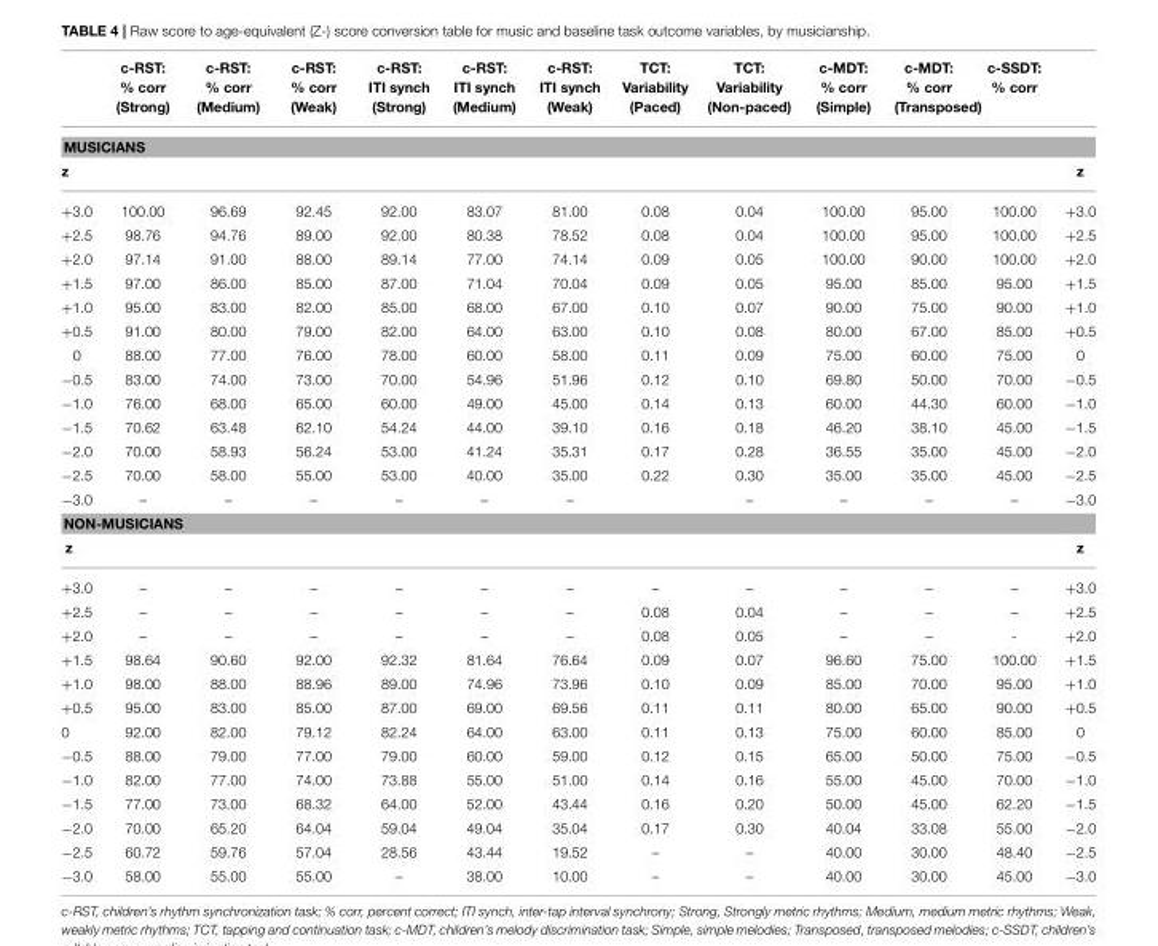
<table><thead><tr><td></td><td>c-RST: % corr (Strong)</td><td>c-RST: % corr (Medium)</td><td>c-RST: % corr (Weak)</td><td>c-RST: ITI synch (Strong)</td><td>c-RST: ITI synch (Medium)</td><td>c-RST: ITI synch (Weak)</td><td>TCT: Variability (Paced)</td><td>TCT: Variability (Non-paced)</td><td>c-MDT: % corr (Simple)</td><td>c-MDT: % corr (Transposed)</td><td>c-SSDT: % corr</td><td></td></tr></thead><tbody><tr><td colspan="13">MUSICIANS</td></tr><tr><td>z</td><td></td><td></td><td></td><td></td><td></td><td></td><td></td><td></td><td></td><td></td><td></td><td>z</td></tr><tr><td>+3.0</td><td>100.00</td><td>96.69</td><td>92.45</td><td>92.00</td><td>83.07</td><td>81.00</td><td>0.08</td><td>0.04</td><td>100.00</td><td>95.00</td><td>100.00</td><td>+3.0</td></tr><tr><td>+2.5</td><td>98.76</td><td>94.76</td><td>89.00</td><td>92.00</td><td>80.38</td><td>78.52</td><td>0.08</td><td>0.04</td><td>100.00</td><td>95.00</td><td>100.00</td><td>+2.5</td></tr><tr><td>+2.0</td><td>97.14</td><td>91.00</td><td>88.00</td><td>89.14</td><td>77.00</td><td>74.14</td><td>0.09</td><td>0.05</td><td>100.00</td><td>90.00</td><td>100.00</td><td>+2.0</td></tr><tr><td>+1.5</td><td>97.00</td><td>86.00</td><td>85.00</td><td>87.00</td><td>71.04</td><td>70.04</td><td>0.09</td><td>0.05</td><td>95.00</td><td>85.00</td><td>95.00</td><td>+1.5</td></tr><tr><td>+1.0</td><td>95.00</td><td>83.00</td><td>82.00</td><td>85.00</td><td>68.00</td><td>67.00</td><td>0.10</td><td>0.07</td><td>90.00</td><td>75.00</td><td>90.00</td><td>+1.0</td></tr><tr><td>+0.5</td><td>91.00</td><td>80.00</td><td>79.00</td><td>82.00</td><td>64.00</td><td>63.00</td><td>0.10</td><td>0.08</td><td>80.00</td><td>67.00</td><td>85.00</td><td>+0.5</td></tr><tr><td>0</td><td>88.00</td><td>77.00</td><td>76.00</td><td>78.00</td><td>60.00</td><td>58.00</td><td>0.11</td><td>0.09</td><td>75.00</td><td>60.00</td><td>75.00</td><td>0</td></tr><tr><td>−0.5</td><td>83.00</td><td>74.00</td><td>73.00</td><td>70.00</td><td>54.96</td><td>51.96</td><td>0.12</td><td>0.10</td><td>69.80</td><td>50.00</td><td>70.00</td><td>−0.5</td></tr><tr><td>−1.0</td><td>76.00</td><td>68.00</td><td>65.00</td><td>60.00</td><td>49.00</td><td>45.00</td><td>0.14</td><td>0.13</td><td>60.00</td><td>44.30</td><td>60.00</td><td>−1.0</td></tr><tr><td>−1.5</td><td>70.62</td><td>63.48</td><td>62.10</td><td>54.24</td><td>44.00</td><td>39.10</td><td>0.16</td><td>0.18</td><td>46.20</td><td>38.10</td><td>45.00</td><td>−1.5</td></tr><tr><td>−2.0</td><td>70.00</td><td>58.93</td><td>56.24</td><td>53.00</td><td>41.24</td><td>35.31</td><td>0.17</td><td>0.28</td><td>36.55</td><td>35.00</td><td>45.00</td><td>−2.0</td></tr><tr><td>−2.5</td><td>70.00</td><td>58.00</td><td>55.00</td><td>53.00</td><td>40.00</td><td>35.00</td><td>0.22</td><td>0.30</td><td>35.00</td><td>35.00</td><td>45.00</td><td>−2.5</td></tr><tr><td>−3.0</td><td>–</td><td>–</td><td>–</td><td>–</td><td>–</td><td>–</td><td></td><td>–</td><td>–</td><td>–</td><td>–</td><td>−3.0</td></tr><tr><td colspan="13">NON-MUSICIANS</td></tr><tr><td>z</td><td></td><td></td><td></td><td></td><td></td><td></td><td></td><td></td><td></td><td></td><td></td><td>z</td></tr><tr><td>+3.0</td><td>–</td><td>–</td><td>–</td><td>–</td><td>–</td><td>–</td><td>–</td><td>–</td><td>–</td><td>–</td><td>–</td><td>+3.0</td></tr><tr><td>+2.5</td><td>–</td><td>–</td><td>–</td><td>–</td><td>–</td><td>–</td><td>0.08</td><td>0.04</td><td>–</td><td>–</td><td>–</td><td>+2.5</td></tr><tr><td>+2.0</td><td>–</td><td>–</td><td>–</td><td>–</td><td>–</td><td>–</td><td>0.08</td><td>0.05</td><td>–</td><td>–</td><td>-</td><td>+2.0</td></tr><tr><td>+1.5</td><td>98.64</td><td>90.60</td><td>92.00</td><td>92.32</td><td>81.64</td><td>76.64</td><td>0.09</td><td>0.07</td><td>96.60</td><td>75.00</td><td>100.00</td><td>+1.5</td></tr><tr><td>+1.0</td><td>98.00</td><td>88.00</td><td>88.96</td><td>89.00</td><td>74.96</td><td>73.96</td><td>0.10</td><td>0.09</td><td>85.00</td><td>70.00</td><td>95.00</td><td>+1.0</td></tr><tr><td>+0.5</td><td>95.00</td><td>83.00</td><td>85.00</td><td>87.00</td><td>69.00</td><td>69.56</td><td>0.11</td><td>0.11</td><td>80.00</td><td>65.00</td><td>90.00</td><td>+0.5</td></tr><tr><td>0</td><td>92.00</td><td>82.00</td><td>79.12</td><td>82.24</td><td>64.00</td><td>63.00</td><td>0.11</td><td>0.13</td><td>75.00</td><td>60.00</td><td>85.00</td><td>0</td></tr><tr><td>−0.5</td><td>88.00</td><td>79.00</td><td>77.00</td><td>79.00</td><td>60.00</td><td>59.00</td><td>0.12</td><td>0.15</td><td>65.00</td><td>50.00</td><td>75.00</td><td>−0.5</td></tr><tr><td>−1.0</td><td>82.00</td><td>77.00</td><td>74.00</td><td>73.88</td><td>55.00</td><td>51.00</td><td>0.14</td><td>0.16</td><td>55.00</td><td>45.00</td><td>70.00</td><td>−1.0</td></tr><tr><td>−1.5</td><td>77.00</td><td>73.00</td><td>68.32</td><td>64.00</td><td>52.00</td><td>43.44</td><td>0.16</td><td>0.20</td><td>50.00</td><td>45.00</td><td>62.20</td><td>−1.5</td></tr><tr><td>−2.0</td><td>70.00</td><td>65.20</td><td>64.04</td><td>59.04</td><td>49.04</td><td>35.04</td><td>0.17</td><td>0.30</td><td>40.04</td><td>33.08</td><td>55.00</td><td>−2.0</td></tr><tr><td>−2.5</td><td>60.72</td><td>59.76</td><td>57.04</td><td>28.56</td><td>43.44</td><td>19.52</td><td>–</td><td>–</td><td>40.00</td><td>30.00</td><td>48.40</td><td>−2.5</td></tr><tr><td>−3.0</td><td>58.00</td><td>55.00</td><td>55.00</td><td>–</td><td>38.00</td><td>10.00</td><td>–</td><td>–</td><td>40.00</td><td>30.00</td><td>45.00</td><td>−3.0</td></tr></tbody></table>